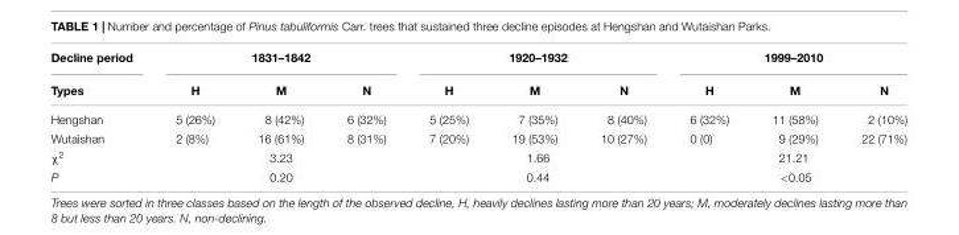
<table><thead><tr><td rowspan="2">Decline period Types</td><td colspan="3">1831–1842</td><td colspan="3">1920–1932</td><td colspan="3">1999–2010</td></tr><tr><td>H</td><td>M</td><td>N</td><td>H</td><td>M</td><td>N</td><td>H</td><td>M</td><td>N</td></tr></thead><tbody><tr><td>Hengshan</td><td>5 (26%)</td><td>8 (42%)</td><td>6 (32%)</td><td>5 (25%)</td><td>7 (35%)</td><td>8 (40%)</td><td>6 (32%)</td><td>11 (58%)</td><td>2 (10%)</td></tr><tr><td>Wutaishan</td><td>2 (8%)</td><td>16 (61%)</td><td>8 (31%)</td><td>7 (20%)</td><td>19 (53%)</td><td>10 (27%)</td><td>0 (0)</td><td>9 (29%)</td><td>22 (71%)</td></tr><tr><td>χ<sup>2</sup></td><td colspan="3">3.23</td><td colspan="3">1.66</td><td colspan="3">21.21</td></tr><tr><td>P</td><td colspan="3">0.20</td><td colspan="3">0.44</td><td colspan="3">&lt;0.05</td></tr></tbody></table>